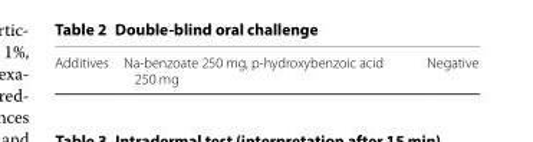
<table><tbody><tr><td>Additives</td><td>Na-benzoate 250 mg, p-hydroxybenzoic acid 250 mg</td><td>Negative</td></tr></tbody></table>